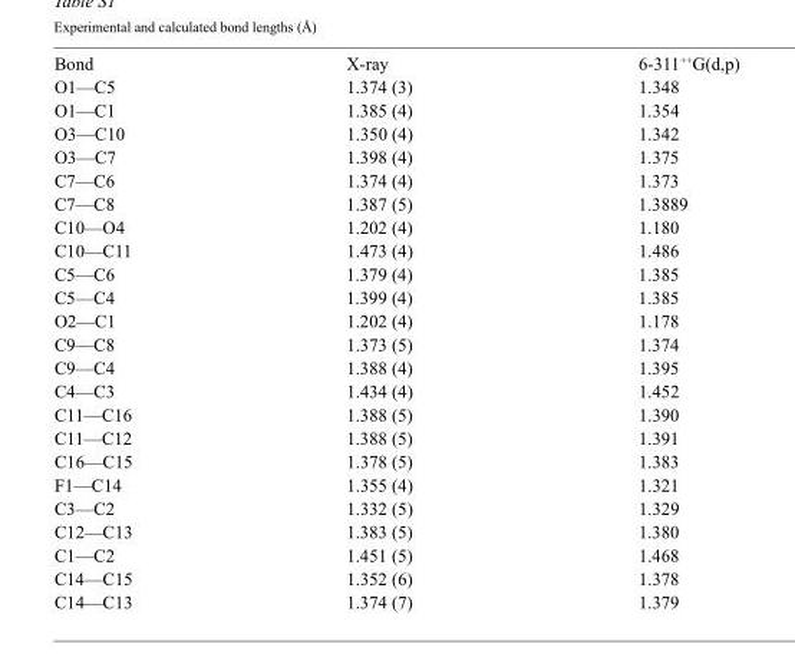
<table><tbody><tr><td>Bond</td><td>X-ray</td><td>6-311<sup>++</sup>G(d,p)</td></tr><tr><td>O1—C5</td><td>1.374 (3)</td><td>1.348</td></tr><tr><td>O1—C1</td><td>1.385 (4)</td><td>1.354</td></tr><tr><td>O3—C10</td><td>1.350 (4)</td><td>1.342</td></tr><tr><td>O3—C7</td><td>1.398 (4)</td><td>1.375</td></tr><tr><td>C7—C6</td><td>1.374 (4)</td><td>1.373</td></tr><tr><td>C7—C8</td><td>1.387 (5)</td><td>1.3889</td></tr><tr><td>C10—O4</td><td>1.202 (4)</td><td>1.180</td></tr><tr><td>C10—C11</td><td>1.473 (4)</td><td>1.486</td></tr><tr><td>C5—C6</td><td>1.379 (4)</td><td>1.385</td></tr><tr><td>C5—C4</td><td>1.399 (4)</td><td>1.385</td></tr><tr><td>O2—C1</td><td>1.202 (4)</td><td>1.178</td></tr><tr><td>C9—C8</td><td>1.373 (5)</td><td>1.374</td></tr><tr><td>C9—C4</td><td>1.388 (4)</td><td>1.395</td></tr><tr><td>C4—C3</td><td>1.434 (4)</td><td>1.452</td></tr><tr><td>C11—C16</td><td>1.388 (5)</td><td>1.390</td></tr><tr><td>C11—C12</td><td>1.388 (5)</td><td>1.391</td></tr><tr><td>C16—C15</td><td>1.378 (5)</td><td>1.383</td></tr><tr><td>F1—C14</td><td>1.355 (4)</td><td>1.321</td></tr><tr><td>C3—C2</td><td>1.332 (5)</td><td>1.329</td></tr><tr><td>C12—C13</td><td>1.383 (5)</td><td>1.380</td></tr><tr><td>C1—C2</td><td>1.451 (5)</td><td>1.468</td></tr><tr><td>C14—C15</td><td>1.352 (6)</td><td>1.378</td></tr><tr><td>C14—C13</td><td>1.374 (7)</td><td>1.379</td></tr></tbody></table>